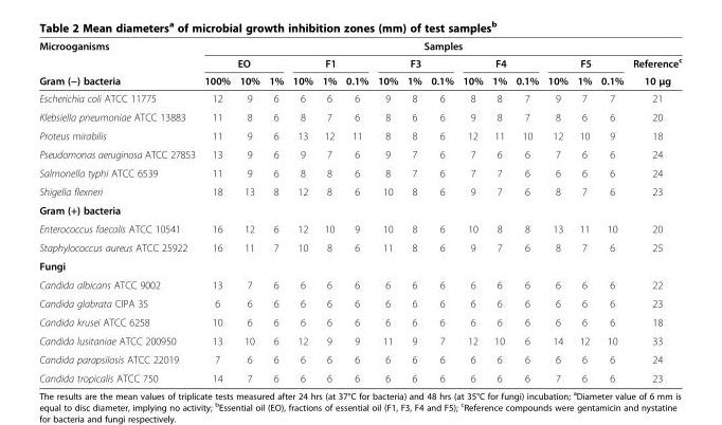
<table><thead><tr><td rowspan="3">Microoganisms Gram (−) bacteria</td><td colspan="16">Samples</td></tr><tr><td colspan="3">EO</td><td colspan="3">F1</td><td colspan="3">F3</td><td colspan="3">F4</td><td colspan="3">F5</td><td rowspan="2">Reference<sup>c</sup> 10 μg</td></tr><tr><td>100%</td><td>10%</td><td>1%</td><td>10%</td><td>1%</td><td>0.1%</td><td>10%</td><td>1%</td><td>0.1%</td><td>10%</td><td>1%</td><td>0.1%</td><td>10%</td><td>1%</td><td>0.1%</td></tr></thead><tbody><tr><td>Escherichia coli ATCC 11775</td><td>12</td><td>9</td><td>6</td><td>6</td><td>6</td><td>6</td><td>9</td><td>8</td><td>6</td><td>8</td><td>8</td><td>7</td><td>9</td><td>7</td><td>7</td><td>21</td></tr><tr><td>Klebsiella pneumoniae ATCC 13883</td><td>11</td><td>8</td><td>6</td><td>8</td><td>7</td><td>6</td><td>8</td><td>6</td><td>6</td><td>9</td><td>8</td><td>7</td><td>8</td><td>6</td><td>6</td><td>20</td></tr><tr><td>Proteus mirabilis</td><td>11</td><td>9</td><td>6</td><td>13</td><td>12</td><td>11</td><td>8</td><td>8</td><td>6</td><td>12</td><td>11</td><td>10</td><td>12</td><td>10</td><td>9</td><td>18</td></tr><tr><td>Pseudomonas aeruginosa ATCC 27853</td><td>13</td><td>9</td><td>6</td><td>9</td><td>7</td><td>6</td><td>9</td><td>7</td><td>6</td><td>7</td><td>6</td><td>6</td><td>7</td><td>6</td><td>6</td><td>24</td></tr><tr><td>Salmonella typhi ATCC 6539</td><td>11</td><td>9</td><td>6</td><td>8</td><td>8</td><td>6</td><td>8</td><td>7</td><td>6</td><td>7</td><td>7</td><td>6</td><td>6</td><td>6</td><td>6</td><td>24</td></tr><tr><td>Shigella flexneri</td><td>18</td><td>13</td><td>8</td><td>12</td><td>8</td><td>6</td><td>10</td><td>8</td><td>6</td><td>9</td><td>7</td><td>6</td><td>8</td><td>7</td><td>6</td><td>23</td></tr><tr><td colspan="17">Gram (+) bacteria</td></tr><tr><td>Enterococcus faecalis ATCC 10541</td><td>16</td><td>12</td><td>6</td><td>12</td><td>10</td><td>9</td><td>10</td><td>8</td><td>6</td><td>10</td><td>8</td><td>8</td><td>13</td><td>11</td><td>10</td><td>20</td></tr><tr><td>Staphylococcus aureus ATCC 25922</td><td>16</td><td>11</td><td>7</td><td>10</td><td>8</td><td>6</td><td>11</td><td>8</td><td>6</td><td>9</td><td>7</td><td>6</td><td>8</td><td>7</td><td>6</td><td>25</td></tr><tr><td colspan="17">Fungi</td></tr><tr><td>Candida albicans ATCC 9002</td><td>13</td><td>7</td><td>6</td><td>6</td><td>6</td><td>6</td><td>6</td><td>6</td><td>6</td><td>6</td><td>6</td><td>6</td><td>6</td><td>6</td><td>6</td><td>22</td></tr><tr><td>Candida glabrata CIPA 35</td><td>6</td><td>6</td><td>6</td><td>6</td><td>6</td><td>6</td><td>6</td><td>6</td><td>6</td><td>6</td><td>6</td><td>6</td><td>6</td><td>6</td><td>6</td><td>23</td></tr><tr><td>Candida krusei ATCC 6258</td><td>10</td><td>6</td><td>6</td><td>6</td><td>6</td><td>6</td><td>6</td><td>6</td><td>6</td><td>6</td><td>6</td><td>6</td><td>6</td><td>6</td><td>6</td><td>18</td></tr><tr><td>Candida lusitaniae ATCC 200950</td><td>13</td><td>10</td><td>6</td><td>12</td><td>9</td><td>9</td><td>11</td><td>9</td><td>7</td><td>12</td><td>10</td><td>6</td><td>14</td><td>12</td><td>10</td><td>33</td></tr><tr><td>Candida parapsilosis ATCC 22019</td><td>7</td><td>6</td><td>6</td><td>6</td><td>6</td><td>6</td><td>6</td><td>6</td><td>6</td><td>6</td><td>6</td><td>6</td><td>6</td><td>6</td><td>6</td><td>24</td></tr><tr><td>Candida tropicalis ATCC 750</td><td>14</td><td>7</td><td>6</td><td>6</td><td>6</td><td>6</td><td>6</td><td>6</td><td>6</td><td>6</td><td>6</td><td>6</td><td>7</td><td>6</td><td>6</td><td>23</td></tr></tbody></table>